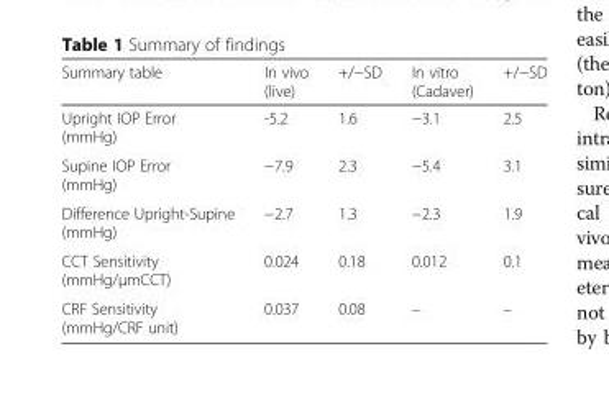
<table><thead><tr><td>Summary table</td><td>In vivo (live)</td><td>+/−SD</td><td>In vitro (Cadaver)</td><td>+/−SD</td></tr></thead><tbody><tr><td>Upright IOP Error (mmHg)</td><td>-5.2</td><td>1.6</td><td>−3.1</td><td>2.5</td></tr><tr><td>Supine IOP Error (mmHg)</td><td>−7.9</td><td>2.3</td><td>−5.4</td><td>3.1</td></tr><tr><td>Difference Upright-Supine (mmHg)</td><td>−2.7</td><td>1.3</td><td>−2.3</td><td>1.9</td></tr><tr><td>CCT Sensitivity (mmHg/μmCCT)</td><td>0.024</td><td>0.18</td><td>0.012</td><td>0.1</td></tr><tr><td>CRF Sensitivity (mmHg/CRF unit)</td><td>0.037</td><td>0.08</td><td>–</td><td>–</td></tr></tbody></table>